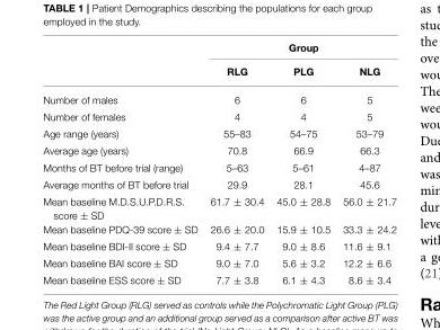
<table><thead><tr><td rowspan="2"></td><td colspan="3">Group</td></tr><tr><td>RLG</td><td>PLG</td><td>NLG</td></tr></thead><tbody><tr><td>Number of males</td><td>6</td><td>6</td><td>5</td></tr><tr><td>Number of females</td><td>4</td><td>4</td><td>5</td></tr><tr><td>Age range (years)</td><td>55–83</td><td>54–75</td><td>53–79</td></tr><tr><td>Average age (years)</td><td>70.8</td><td>66.9</td><td>66.3</td></tr><tr><td>Months of BT before trial (range)</td><td>5–63</td><td>5–61</td><td>4–87</td></tr><tr><td>Average months of BT before trial</td><td>29.9</td><td>28.1</td><td>45.6</td></tr><tr><td>Mean baseline M.D.S.U.P.D.R.S. score ± SD</td><td>61.7 ± 30.4</td><td>45.0 ± 28.8</td><td>56.0 ± 21.7</td></tr><tr><td>Mean baseline PDQ-39 score ± SD</td><td>26.6 ± 20.0</td><td>15.9 ± 10.5</td><td>33.3 ± 24.2</td></tr><tr><td>Mean baseline BDI-II score ± SD</td><td>9.4 ± 7.7</td><td>9.0 ± 8.6</td><td>11.6 ± 9.1</td></tr><tr><td>Mean baseline BAI score ± SD</td><td>9.0 ± 7.0</td><td>5.6 ± 3.2</td><td>12.2 ± 6.6</td></tr><tr><td>Mean baseline ESS score ± SD</td><td>7.7 ± 3.8</td><td>6.1 ± 4.3</td><td>8.6 ± 3.4</td></tr></tbody></table>